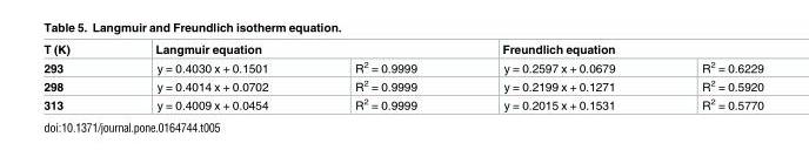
<table><thead><tr><td rowspan="2">T (K) 293</td><td colspan="2">Langmuir equation</td><td colspan="2">Freundlich equation</td></tr><tr><td>y = 0.4030 x + 0.1501</td><td>R<sup>2</sup> = 0.9999</td><td>y = 0.2597 x + 0.0679</td><td>R<sup>2</sup> = 0.6229</td></tr></thead><tbody><tr><td>298</td><td>y = 0.4014 x + 0.0702</td><td>R<sup>2</sup> = 0.9999</td><td>y = 0.2199 x + 0.1271</td><td>R<sup>2</sup> = 0.5920</td></tr><tr><td>313</td><td>y = 0.4009 x + 0.0454</td><td>R<sup>2</sup> = 0.9999</td><td>y = 0.2015 x + 0.1531</td><td>R<sup>2</sup> = 0.5770</td></tr></tbody></table>